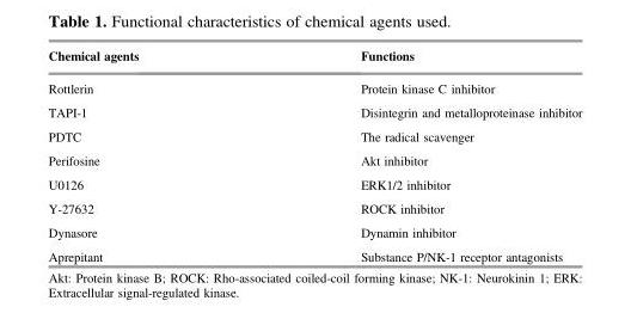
<table><thead><tr><td>Chemical agents</td><td>Functions</td></tr></thead><tbody><tr><td>Rottlerin</td><td>Protein kinase C inhibitor</td></tr><tr><td>TAPI-1</td><td>Disintegrin and metalloproteinase inhibitor</td></tr><tr><td>PDTC</td><td>The radical scavenger</td></tr><tr><td>Perifosine</td><td>Akt inhibitor</td></tr><tr><td>U0126</td><td>ERK1/2 inhibitor</td></tr><tr><td>Y-27632</td><td>ROCK inhibitor</td></tr><tr><td>Dynasore</td><td>Dynamin inhibitor</td></tr><tr><td>Aprepitant</td><td>Substance P/NK-1 receptor antagonists</td></tr></tbody></table>